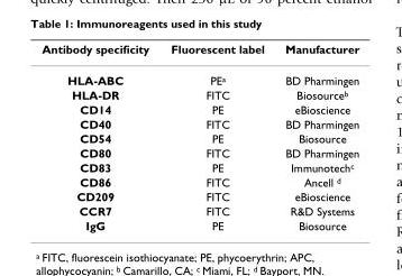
<table><thead><tr><td>Antibody specificity</td><td>Fluorescent label</td><td>Manufacturer</td></tr></thead><tbody><tr><td>HLA-ABC</td><td>PE<sup>a</sup></td><td>BD Pharmingen</td></tr><tr><td>HLA-DR</td><td>FITC</td><td>Biosource<sup>b</sup></td></tr><tr><td>CD14</td><td>PE</td><td>eBioscience</td></tr><tr><td>CD40</td><td>FITC</td><td>BD Pharmingen</td></tr><tr><td>CD54</td><td>PE</td><td>Biosource</td></tr><tr><td>CD80</td><td>FITC</td><td>BD Pharmingen</td></tr><tr><td>CD83</td><td>PE</td><td>Immunotech<sup>c</sup></td></tr><tr><td>CD86</td><td>FITC</td><td>Ancell <sup>d</sup></td></tr><tr><td>CD209</td><td>FITC</td><td>eBioscience</td></tr><tr><td>CCR7</td><td>FITC</td><td>R&amp;D Systems</td></tr><tr><td>IgG</td><td>PE</td><td>Biosource</td></tr></tbody></table>